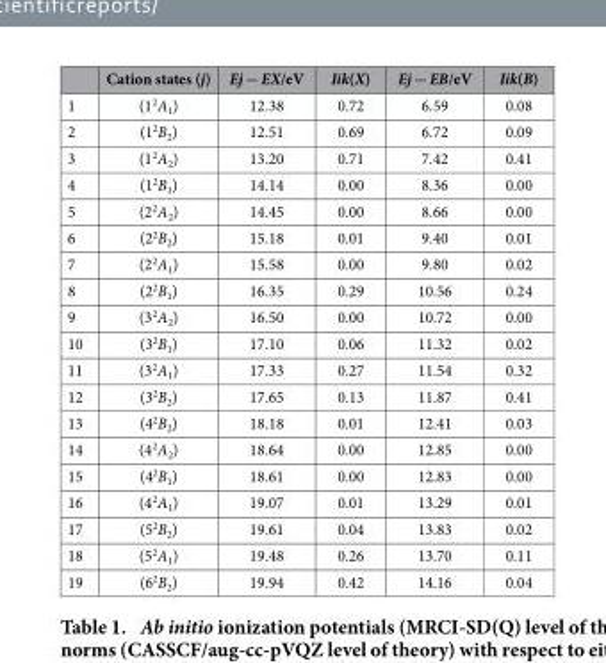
<table><thead><tr><td></td><td>Cation states (j)</td><td>Ej − EX/eV</td><td>Iik(X)</td><td>Ej − EB/eV</td><td>Iik(B)</td></tr></thead><tbody><tr><td>1</td><td>(1<sup>2</sup>A<sub>1</sub>)</td><td>12.38</td><td>0.72</td><td>6.59</td><td>0.08</td></tr><tr><td>2</td><td>(1<sup>2</sup>B<sub>2</sub>)</td><td>12.51</td><td>0.69</td><td>6.72</td><td>0.09</td></tr><tr><td>3</td><td>(1<sup>2</sup>A<sub>2</sub>)</td><td>13.20</td><td>0.71</td><td>7.42</td><td>0.41</td></tr><tr><td>4</td><td>(1<sup>2</sup>B<sub>1</sub>)</td><td>14.14</td><td>0.00</td><td>8.36</td><td>0.00</td></tr><tr><td>5</td><td>(2<sup>2</sup>A<sub>2</sub>)</td><td>14.45</td><td>0.00</td><td>8.66</td><td>0.00</td></tr><tr><td>6</td><td>(2<sup>2</sup>B<sub>2</sub>)</td><td>15.18</td><td>0.01</td><td>9.40</td><td>0.01</td></tr><tr><td>7</td><td>(2<sup>2</sup>A<sub>1</sub>)</td><td>15.58</td><td>0.00</td><td>9.80</td><td>0.02</td></tr><tr><td>8</td><td>(2<sup>2</sup>B<sub>1</sub>)</td><td>16.35</td><td>0.29</td><td>10.56</td><td>0.24</td></tr><tr><td>9</td><td>(3<sup>2</sup>A<sub>2</sub>)</td><td>16.50</td><td>0.00</td><td>10.72</td><td>0.00</td></tr><tr><td>10</td><td>(3<sup>2</sup>B<sub>1</sub>)</td><td>17.10</td><td>0.06</td><td>11.32</td><td>0.02</td></tr><tr><td>11</td><td>(3<sup>2</sup>A<sub>1</sub>)</td><td>17.33</td><td>0.27</td><td>11.54</td><td>0.32</td></tr><tr><td>12</td><td>(3<sup>2</sup>B<sub>2</sub>)</td><td>17.65</td><td>0.13</td><td>11.87</td><td>0.41</td></tr><tr><td>13</td><td>(4<sup>2</sup>B<sub>2</sub>)</td><td>18.18</td><td>0.01</td><td>12.41</td><td>0.03</td></tr><tr><td>14</td><td>(4<sup>2</sup>A<sub>2</sub>)</td><td>18.64</td><td>0.00</td><td>12.85</td><td>0.00</td></tr><tr><td>15</td><td>(4<sup>2</sup>B<sub>1</sub>)</td><td>18.61</td><td>0.00</td><td>12.83</td><td>0.00</td></tr><tr><td>16</td><td>(4<sup>2</sup>A<sub>1</sub>)</td><td>19.07</td><td>0.01</td><td>13.29</td><td>0.01</td></tr><tr><td>17</td><td>(5<sup>2</sup>B<sub>2</sub>)</td><td>19.61</td><td>0.04</td><td>13.83</td><td>0.02</td></tr><tr><td>18</td><td>(5<sup>2</sup>A<sub>1</sub>)</td><td>19.48</td><td>0.26</td><td>13.70</td><td>0.11</td></tr><tr><td>19</td><td>(6<sup>2</sup>B<sub>2</sub>)</td><td>19.94</td><td>0.42</td><td>14.16</td><td>0.04</td></tr></tbody></table>